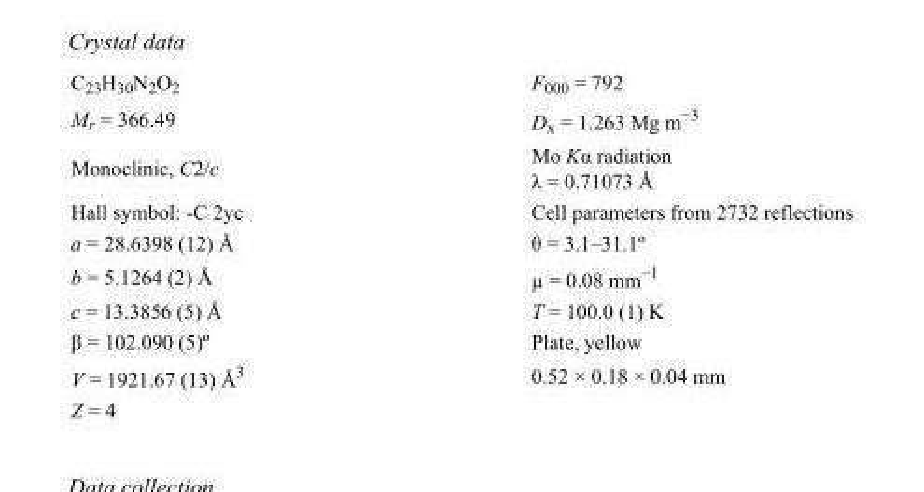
<table><tbody><tr><td>C<sub>23</sub>H<sub>30</sub>N<sub>2</sub>O<sub>2</sub></td><td>F<sub>000</sub> = 792</td></tr><tr><td>M<sub>r</sub> = 366.49</td><td>D<sub>x</sub> = 1.263 Mg m<sup>−3</sup></td></tr><tr><td>Monoclinic, C2/c</td><td>Mo Kα radiation λ = 0.71073 Å</td></tr><tr><td>Hall symbol: -C 2yc</td><td>Cell parameters from 2732 reflections</td></tr><tr><td>a = 28.6398 (12) Å</td><td>θ = 3.1–31.1º</td></tr><tr><td>b = 5.1264 (2) Å</td><td>µ = 0.08 mm<sup>−1</sup></td></tr><tr><td>c = 13.3856 (5) Å</td><td>T = 100.0 (1) K</td></tr><tr><td>β = 102.090 (5)º</td><td>Plate, yellow</td></tr><tr><td>V = 1921.67 (13) Å<sup>3</sup></td><td>0.52 × 0.18 × 0.04 mm</td></tr><tr><td>Z = 4</td><td></td></tr></tbody></table>